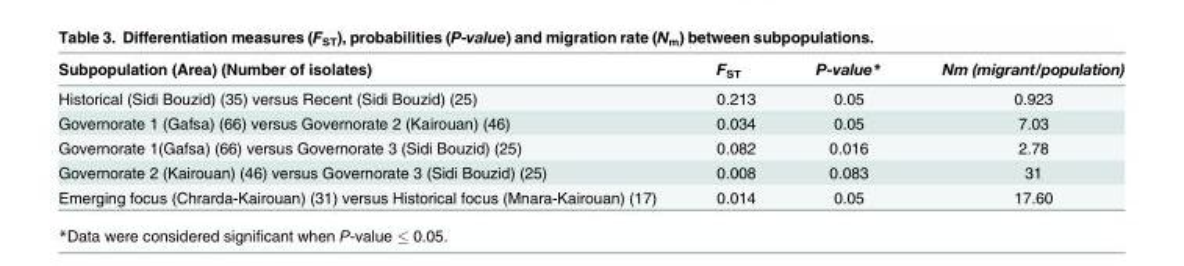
<table><thead><tr><td>Subpopulation (Area) (Number of isolates)</td><td>F<sub>ST</sub></td><td>P-value*</td><td>Nm (migrant/population)</td></tr></thead><tbody><tr><td>Historical (Sidi Bouzid) (35) versus Recent (Sidi Bouzid) (25)</td><td>0.213</td><td>0.05</td><td>0.923</td></tr><tr><td>Governorate 1 (Gafsa) (66) versus Governorate 2 (Kairouan) (46)</td><td>0.034</td><td>0.05</td><td>7.03</td></tr><tr><td>Governorate 1(Gafsa) (66) versus Governorate 3 (Sidi Bouzid) (25)</td><td>0.082</td><td>0.016</td><td>2.78</td></tr><tr><td>Governorate 2 (Kairouan) (46) versus Governorate 3 (Sidi Bouzid) (25)</td><td>0.008</td><td>0.083</td><td>31</td></tr><tr><td>Emerging focus (Chrarda-Kairouan) (31) versus Historical focus (Mnara-Kairouan) (17)</td><td>0.014</td><td>0.05</td><td>17.60</td></tr></tbody></table>